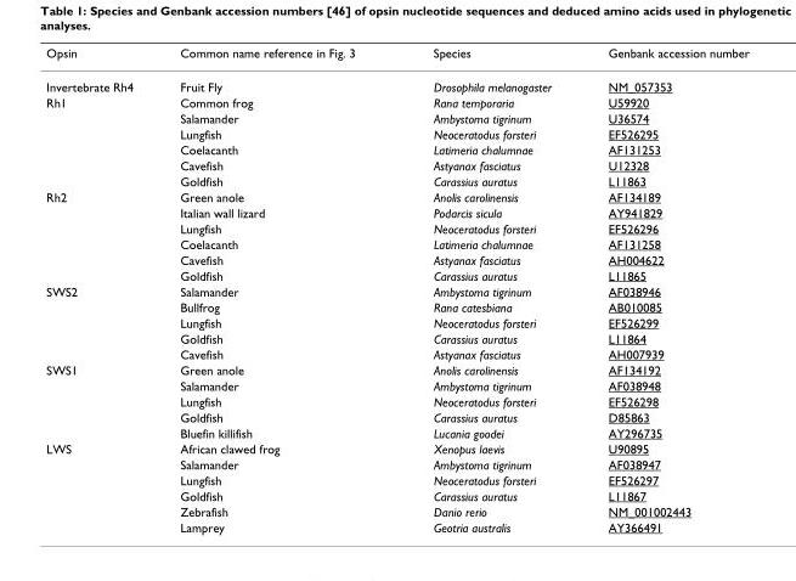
<table><thead><tr><td>Opsin</td><td>Common name reference in Fig. 3</td><td>Species</td><td>Genbank accession number</td></tr></thead><tbody><tr><td>Invertebrate Rh4</td><td>Fruit Fly</td><td>Drosophila melanogaster</td><td>NM_057353</td></tr><tr><td rowspan="6">Rh1</td><td>Common frog</td><td>Rana temporaria</td><td>U59920</td></tr><tr><td>Salamander</td><td>Ambystoma tigrinum</td><td>U36574</td></tr><tr><td>Lungfish</td><td>Neoceratodus forsteri</td><td>EF526295</td></tr><tr><td>Coelacanth</td><td>Latimeria chalumnae</td><td>AF131253</td></tr><tr><td>Cavefish</td><td>Astyanax fasciatus</td><td>U12328</td></tr><tr><td>Goldfish</td><td>Carassius auratus</td><td>L11863</td></tr><tr><td rowspan="6">Rh2</td><td>Green anole</td><td>Anolis carolinensis</td><td>AF134189</td></tr><tr><td>Italian wall lizard</td><td>Podarcis sicula</td><td>AY941829</td></tr><tr><td>Lungfish</td><td>Neoceratodus forsteri</td><td>EF526296</td></tr><tr><td>Coelacanth</td><td>Latimeria chalumnae</td><td>AF131258</td></tr><tr><td>Cavefish</td><td>Astyanax fasciatus</td><td>AH004622</td></tr><tr><td>Goldfish</td><td>Carassius auratus</td><td>L11865</td></tr><tr><td rowspan="5">SWS2</td><td>Salamander</td><td>Ambystoma tigrinum</td><td>AF038946</td></tr><tr><td>Bullfrog</td><td>Rana catesbiana</td><td>AB010085</td></tr><tr><td>Lungfish</td><td>Neoceratodus forsteri</td><td>EF526299</td></tr><tr><td>Goldfish</td><td>Carassius auratus</td><td>L11864</td></tr><tr><td>Cavefish</td><td>Astyanax fasciatus</td><td>AH007939</td></tr><tr><td rowspan="5">SWS1</td><td>Green anole</td><td>Anolis carolinensis</td><td>AF134192</td></tr><tr><td>Salamander</td><td>Ambystoma tigrinum</td><td>AF038948</td></tr><tr><td>Lungfish</td><td>Neoceratodus forsteri</td><td>EF526298</td></tr><tr><td>Goldfish</td><td>Carassius auratus</td><td>D85863</td></tr><tr><td>Bluefin killifish</td><td>Lucania goodei</td><td>AY296735</td></tr><tr><td rowspan="6">LWS</td><td>African clawed frog</td><td>Xenopus laevis</td><td>U90895</td></tr><tr><td>Salamander</td><td>Ambystoma tigrinum</td><td>AF038947</td></tr><tr><td>Lungfish</td><td>Neoceratodus forsteri</td><td>EF526297</td></tr><tr><td>Goldfish</td><td>Carassius auratus</td><td>L11867</td></tr><tr><td>Zebrafish</td><td>Danio rerio</td><td>NM_001002443</td></tr><tr><td>Lamprey</td><td>Geotria australis</td><td>AY366491</td></tr></tbody></table>